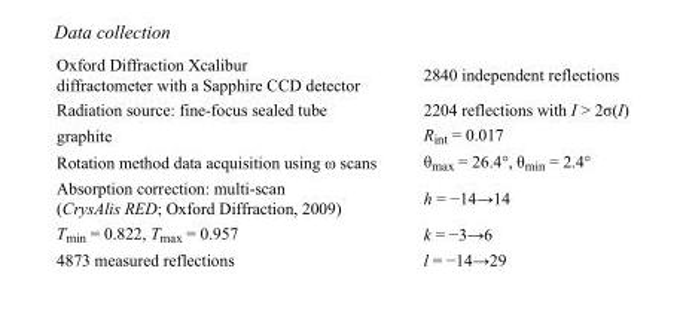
<table><tbody><tr><td>Oxford Diffraction Xcalibur diffractometer with a Sapphire CCD detector</td><td>2840 independent reflections</td></tr><tr><td>Radiation source: fine-focus sealed tube</td><td>2204 reflections with I &gt; 2σ(I)</td></tr><tr><td>graphite</td><td>R<sub>int</sub> = 0.017</td></tr><tr><td>Rotation method data acquisition using ω scans</td><td>θ<sub>max</sub> = 26.4°, θ<sub>min</sub> = 2.4°</td></tr><tr><td>Absorption correction: multi-scan (CrysAlis RED; Oxford Diffraction, 2009)</td><td>h = −14→14</td></tr><tr><td>T<sub>min</sub> = 0.822, T<sub>max</sub> = 0.957</td><td>k = −3→6</td></tr><tr><td>4873 measured reflections</td><td>l = −14→29</td></tr></tbody></table>